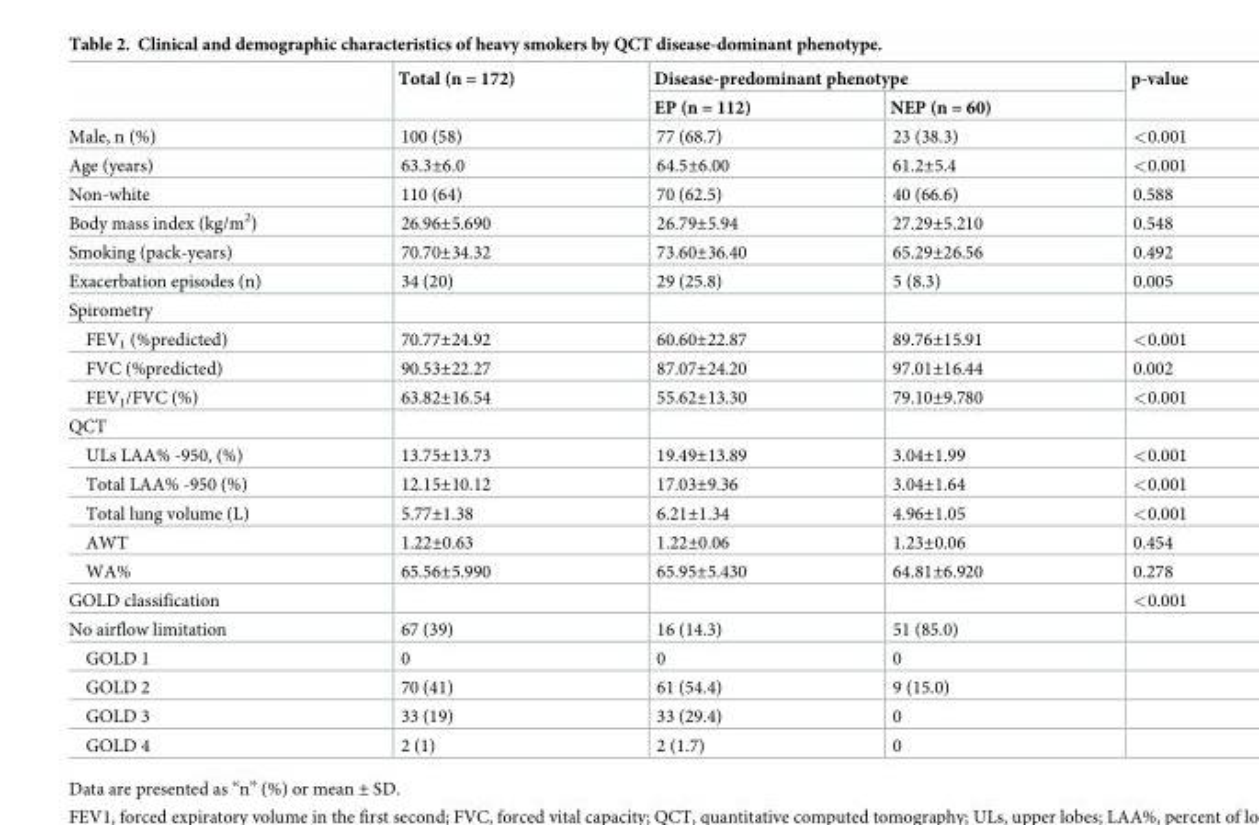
<table><thead><tr><td rowspan="2"></td><td rowspan="2">Total (n = 172)</td><td colspan="2">Disease-predominant phenotype</td><td rowspan="2">p-value</td></tr><tr><td>EP (n = 112)</td><td>NEP (n = 60)</td></tr></thead><tbody><tr><td>Male, n (%)</td><td>100 (58)</td><td>77 (68.7)</td><td>23 (38.3)</td><td>&lt;0.001</td></tr><tr><td>Age (years)</td><td>63.3±6.0</td><td>64.5±6.00</td><td>61.2±5.4</td><td>&lt;0.001</td></tr><tr><td>Non-white</td><td>110 (64)</td><td>70 (62.5)</td><td>40 (66.6)</td><td>0.588</td></tr><tr><td>Body mass index (kg/m<sup>2</sup>)</td><td>26.96±5.690</td><td>26.79±5.94</td><td>27.29±5.210</td><td>0.548</td></tr><tr><td>Smoking (pack-years)</td><td>70.70±34.32</td><td>73.60±36.40</td><td>65.29±26.56</td><td>0.492</td></tr><tr><td>Exacerbation episodes (n)</td><td>34 (20)</td><td>29 (25.8)</td><td>5 (8.3)</td><td>0.005</td></tr><tr><td colspan="5">Spirometry</td></tr><tr><td>FEV<sub>1</sub> (%predicted)</td><td>70.77±24.92</td><td>60.60±22.87</td><td>89.76±15.91</td><td>&lt;0.001</td></tr><tr><td>FVC (%predicted)</td><td>90.53±22.27</td><td>87.07±24.20</td><td>97.01±16.44</td><td>0.002</td></tr><tr><td>FEV<sub>1</sub>/FVC (%)</td><td>63.82±16.54</td><td>55.62±13.30</td><td>79.10±9.780</td><td>&lt;0.001</td></tr><tr><td colspan="5">QCT</td></tr><tr><td>ULs LAA% -950, (%)</td><td>13.75±13.73</td><td>19.49±13.89</td><td>3.04±1.99</td><td>&lt;0.001</td></tr><tr><td>Total LAA% -950 (%)</td><td>12.15±10.12</td><td>17.03±9.36</td><td>3.04±1.64</td><td>&lt;0.001</td></tr><tr><td>Total lung volume (L)</td><td>5.77±1.38</td><td>6.21±1.34</td><td>4.96±1.05</td><td>&lt;0.001</td></tr><tr><td>AWT</td><td>1.22±0.63</td><td>1.22±0.06</td><td>1.23±0.06</td><td>0.454</td></tr><tr><td>WA%</td><td>65.56±5.990</td><td>65.95±5.430</td><td>64.81±6.920</td><td>0.278</td></tr><tr><td>GOLD classification</td><td></td><td></td><td></td><td>&lt;0.001</td></tr><tr><td>No airflow limitation</td><td>67 (39)</td><td>16 (14.3)</td><td>51 (85.0)</td><td></td></tr><tr><td>GOLD 1</td><td>0</td><td>0</td><td>0</td><td></td></tr><tr><td>GOLD 2</td><td>70 (41)</td><td>61 (54.4)</td><td>9 (15.0)</td><td></td></tr><tr><td>GOLD 3</td><td>33 (19)</td><td>33 (29.4)</td><td>0</td><td></td></tr><tr><td>GOLD 4</td><td>2 (1)</td><td>2 (1.7)</td><td>0</td><td></td></tr></tbody></table>